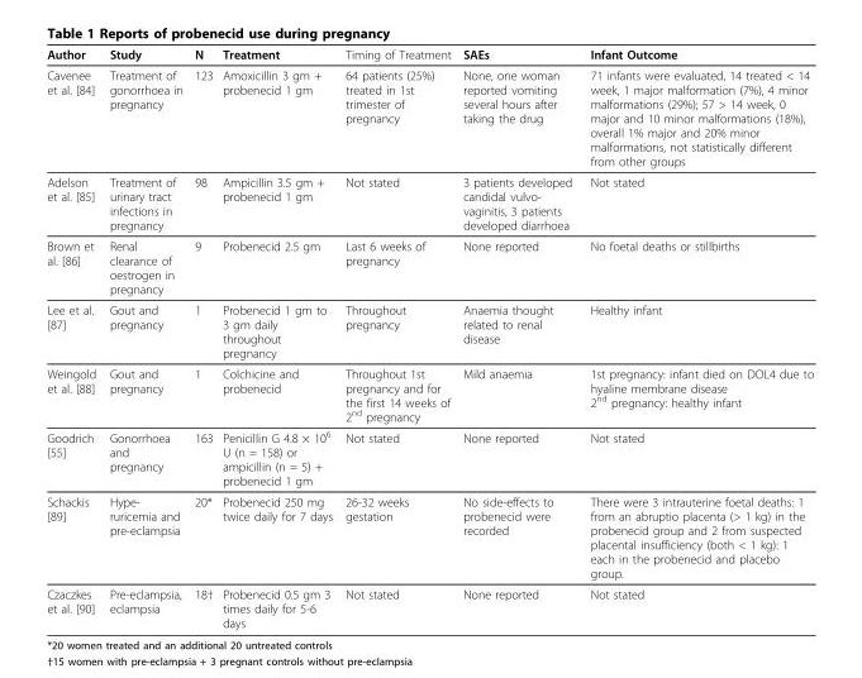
<table><thead><tr><td>Author</td><td>Study</td><td>N</td><td>Treatment</td><td>Timing of Treatment</td><td>SAEs</td><td>Infant Outcome</td></tr></thead><tbody><tr><td>Cavenee et al. [84]</td><td>Treatment of gonorrhoea in pregnancy</td><td>123</td><td>Amoxicillin 3 gm + probenecid 1 gm</td><td>64 patients (25%) treated in 1st trimester of pregnancy</td><td>None, one woman reported vomiting several hours after taking the drug</td><td>71 infants were evaluated, 14 treated &lt; 14 week, 1 major malformation (7%), 4 minor malformations (29%); 57 &gt; 14 week, 0 major and 10 minor malformations (18%), overall 1% major and 20% minor malformations, not statistically different from other groups</td></tr><tr><td>Adelson et al. [85]</td><td>Treatment of urinary tract infections in pregnancy</td><td>98</td><td>Ampicillin 3.5 gm + probenecid 1 gm</td><td>Not stated</td><td>3 patients developed candidal vulvo- vaginitis, 3 patients developed diarrhoea</td><td>Not stated</td></tr><tr><td>Brown et al. [86]</td><td>Renal clearance of oestrogen in pregnancy</td><td>9</td><td>Probenecid 2.5 gm</td><td>Last 6 weeks of pregnancy</td><td>None reported</td><td>No foetal deaths or stillbirths</td></tr><tr><td>Lee et al. [87]</td><td>Gout and pregnancy</td><td>1</td><td>Probenecid 1 gm to 3 gm daily throughout pregnancy</td><td>Throughout pregnancy</td><td>Anaemia thought related to renal disease</td><td>Healthy infant</td></tr><tr><td>Weingold et al. [88]</td><td>Gout and pregnancy</td><td>1</td><td>Colchicine and probenecid</td><td>Throughout 1st pregnancy and for the first 14 weeks of 2<sup>nd</sup> pregnancy</td><td>Mild anaemia</td><td>1st pregnancy: infant died on DOL4 due to hyaline membrane disease 2<sup>nd</sup> pregnancy: healthy infant</td></tr><tr><td>Goodrich [55]</td><td>Gonorrhoea and pregnancy</td><td>163</td><td>Penicillin G 4.8 × 10<sup>6</sup> U (n = 158) or ampicillin (n = 5) + probenecid 1 gm</td><td>Not stated</td><td>None reported</td><td>Not stated</td></tr><tr><td>Schackis [89]</td><td>Hype- ruricemia and pre-eclampsia</td><td>20*</td><td>Probenecid 250 mg twice daily for 7 days</td><td>26-32 weeks gestation</td><td>No side-effects to probenecid were recorded</td><td>There were 3 intrauterine foetal deaths: 1 from an abruptio placenta (&gt; 1 kg) in the probenecid group and 2 from suspected placental insufficiency (both &lt; 1 kg): 1 each in the probenecid and placebo group.</td></tr><tr><td>Czaczkes et al. [90]</td><td>Pre-eclampsia, eclampsia</td><td>18†</td><td>Probenecid 0.5 gm 3 times daily for 5-6 days</td><td>Not stated</td><td>None reported</td><td>Not stated</td></tr></tbody></table>